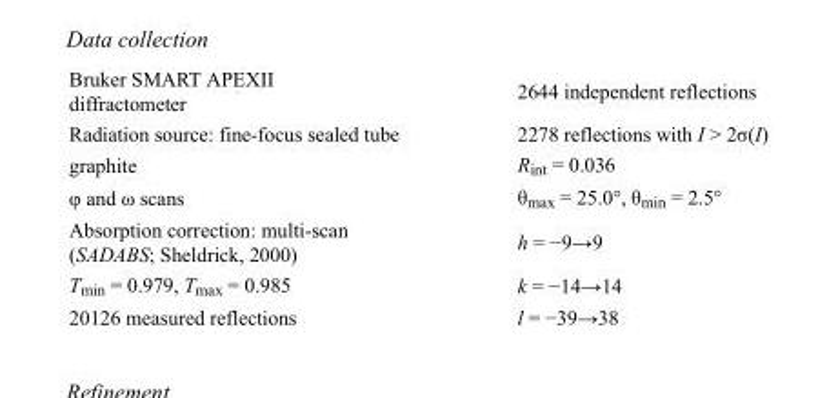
<table><tbody><tr><td>Bruker SMART APEXII diffractometer</td><td>2644 independent reflections</td></tr><tr><td>Radiation source: fine-focus sealed tube</td><td>2278 reflections with I &gt; 2σ(I)</td></tr><tr><td>graphite</td><td>R<sub>int</sub> = 0.036</td></tr><tr><td>φ and ω scans</td><td>θ<sub>max</sub> = 25.0°, θ<sub>min</sub> = 2.5°</td></tr><tr><td>Absorption correction: multi-scan (SADABS; Sheldrick, 2000)</td><td>h = −9→9</td></tr><tr><td>T<sub>min</sub> = 0.979, T<sub>max</sub> = 0.985</td><td>k = −14→14</td></tr><tr><td>20126 measured reflections</td><td>l = −39→38</td></tr></tbody></table>